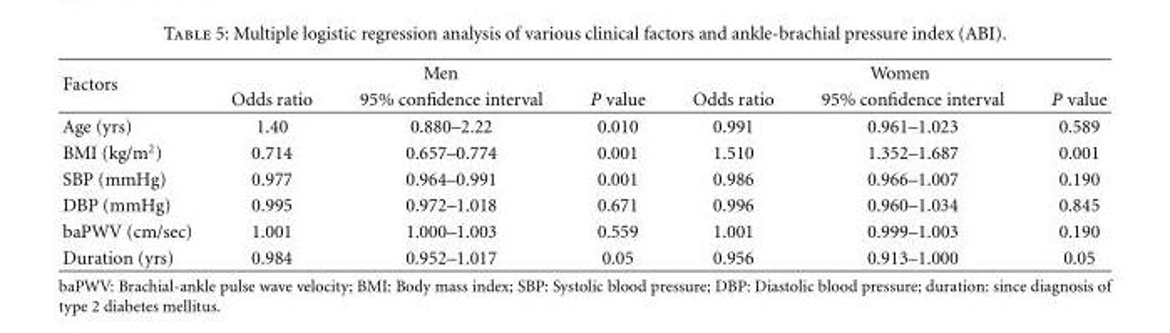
<table><thead><tr><td rowspan="2">Factors</td><td colspan="3">Men</td><td colspan="3">Women</td></tr><tr><td>Odds ratio</td><td>95% confidence interval</td><td>P value</td><td>Odds ratio</td><td>95% confidence interval</td><td>P value</td></tr></thead><tbody><tr><td>Age (yrs)</td><td>1.40</td><td>0.880–2.22</td><td>0.010</td><td>0.991</td><td>0.961–1.023</td><td>0.589</td></tr><tr><td>BMI (kg/m<sup>2</sup>)</td><td>0.714</td><td>0.657–0.774</td><td>0.001</td><td>1.510</td><td>1.352–1.687</td><td>0.001</td></tr><tr><td>SBP (mmHg)</td><td>0.977</td><td>0.964–0.991</td><td>0.001</td><td>0.986</td><td>0.966–1.007</td><td>0.190</td></tr><tr><td>DBP (mmHg)</td><td>0.995</td><td>0.972–1.018</td><td>0.671</td><td>0.996</td><td>0.960–1.034</td><td>0.845</td></tr><tr><td>baPWV (cm/sec)</td><td>1.001</td><td>1.000–1.003</td><td>0.559</td><td>1.001</td><td>0.999–1.003</td><td>0.190</td></tr><tr><td>Duration (yrs)</td><td>0.984</td><td>0.952–1.017</td><td>0.05</td><td>0.956</td><td>0.913–1.000</td><td>0.05</td></tr></tbody></table>